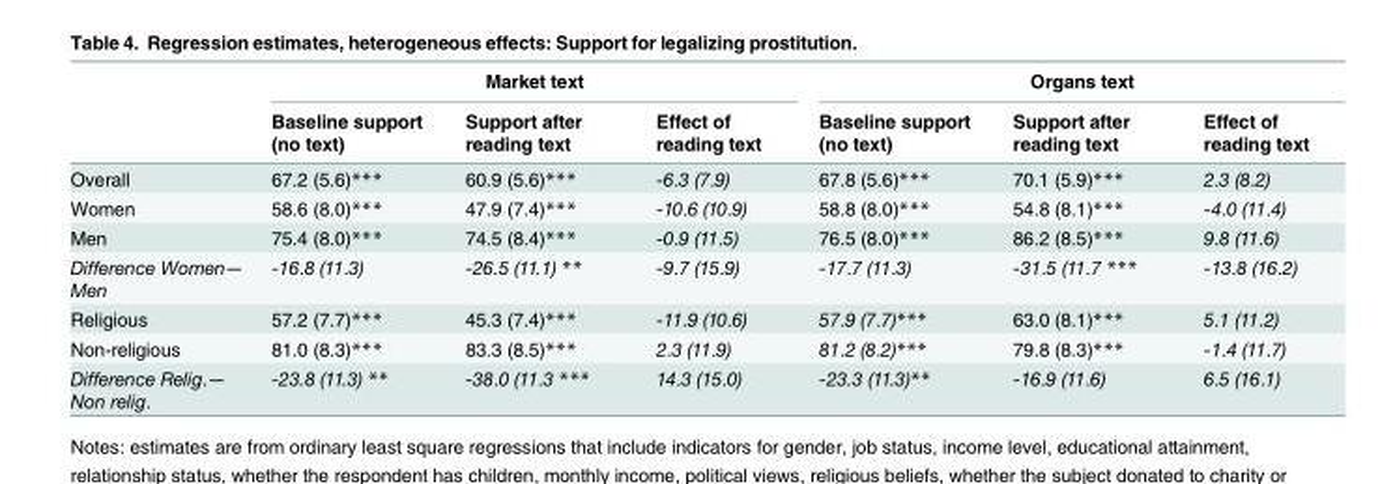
<table><thead><tr><td rowspan="2"></td><td colspan="3">Market text</td><td colspan="3">Organs text</td></tr><tr><td>Baseline support (no text)</td><td>Support after reading text</td><td>Effect of reading text</td><td>Baseline support (no text)</td><td>Support after reading text</td><td>Effect of reading text</td></tr></thead><tbody><tr><td>Overall</td><td>67.2 (5.6)***</td><td>60.9 (5.6)***</td><td>-6.3 (7.9)</td><td>67.8 (5.6)***</td><td>70.1 (5.9)***</td><td>2.3 (8.2)</td></tr><tr><td>Women</td><td>58.6 (8.0)***</td><td>47.9 (7.4)***</td><td>-10.6 (10.9)</td><td>58.8 (8.0)***</td><td>54.8 (8.1)***</td><td>-4.0 (11.4)</td></tr><tr><td>Men</td><td>75.4 (8.0)***</td><td>74.5 (8.4)***</td><td>-0.9 (11.5)</td><td>76.5 (8.0)***</td><td>86.2 (8.5)***</td><td>9.8 (11.6)</td></tr><tr><td>Difference Women— Men</td><td>-16.8 (11.3)</td><td>-26.5 (11.1) **</td><td>-9.7 (15.9)</td><td>-17.7 (11.3)</td><td>-31.5 (11.7 ***</td><td>-13.8 (16.2)</td></tr><tr><td>Religious</td><td>57.2 (7.7)***</td><td>45.3 (7.4)***</td><td>-11.9 (10.6)</td><td>57.9 (7.7)***</td><td>63.0 (8.1)***</td><td>5.1 (11.2)</td></tr><tr><td>Non-religious</td><td>81.0 (8.3)***</td><td>83.3 (8.5)***</td><td>2.3 (11.9)</td><td>81.2 (8.2)***</td><td>79.8 (8.3)***</td><td>-1.4 (11.7)</td></tr><tr><td>Difference Relig.— Non relig.</td><td>-23.8 (11.3) **</td><td>-38.0 (11.3 ***</td><td>14.3 (15.0)</td><td>-23.3 (11.3)**</td><td>-16.9 (11.6)</td><td>6.5 (16.1)</td></tr></tbody></table>